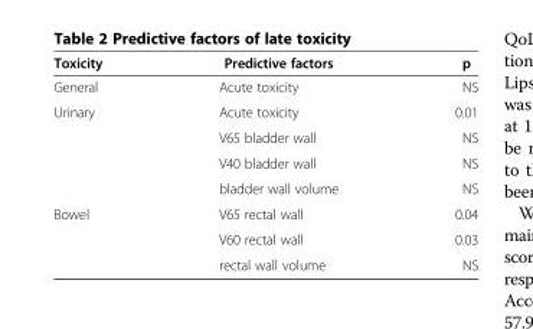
<table><thead><tr><td>Toxicity</td><td>Predictive factors</td><td>p</td></tr></thead><tbody><tr><td>General</td><td>Acute toxicity</td><td>NS</td></tr><tr><td rowspan="4">Urinary</td><td>Acute toxicity</td><td>0.01</td></tr><tr><td>V65 bladder wall</td><td>NS</td></tr><tr><td>V40 bladder wall</td><td>NS</td></tr><tr><td>bladder wall volume</td><td>NS</td></tr><tr><td rowspan="3">Bowel</td><td>V65 rectal wall</td><td>0.04</td></tr><tr><td>V60 rectal wall</td><td>0.03</td></tr><tr><td>rectal wall volume</td><td>NS</td></tr></tbody></table>